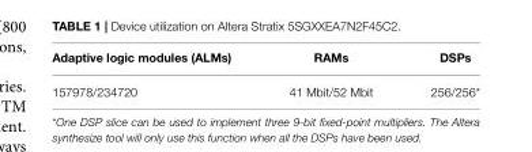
<table><thead><tr><td>Adaptive logic modules (ALMs)</td><td>RAMs</td><td>DSPs</td></tr></thead><tbody><tr><td>157978/234720</td><td>41 Mbit/52 Mbit</td><td>256/256*</td></tr></tbody></table>